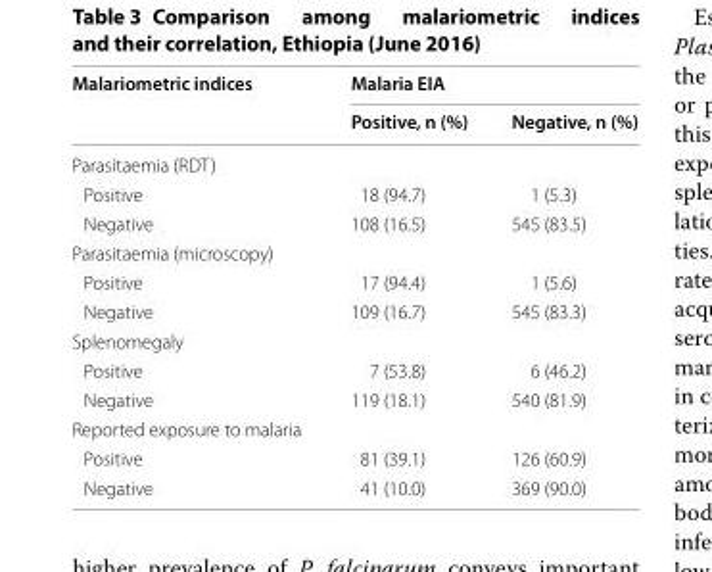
<table><thead><tr><td rowspan="2">Malariometric indices</td><td colspan="2">Malaria EIA</td></tr><tr><td>Positive, n (%)</td><td>Negative, n (%)</td></tr></thead><tbody><tr><td colspan="3">Parasitaemia (RDT)</td></tr><tr><td>Positive</td><td>18 (94.7)</td><td>1 (5.3)</td></tr><tr><td>Negative</td><td>108 (16.5)</td><td>545 (83.5)</td></tr><tr><td colspan="3">Parasitaemia (microscopy)</td></tr><tr><td>Positive</td><td>17 (94.4)</td><td>1 (5.6)</td></tr><tr><td>Negative</td><td>109 (16.7)</td><td>545 (83.3)</td></tr><tr><td colspan="3">Splenomegaly</td></tr><tr><td>Positive</td><td>7 (53.8)</td><td>6 (46.2)</td></tr><tr><td>Negative</td><td>119 (18.1)</td><td>540 (81.9)</td></tr><tr><td colspan="3">Reported exposure to malaria</td></tr><tr><td>Positive</td><td>81 (39.1)</td><td>126 (60.9)</td></tr><tr><td>Negative</td><td>41 (10.0)</td><td>369 (90.0)</td></tr></tbody></table>